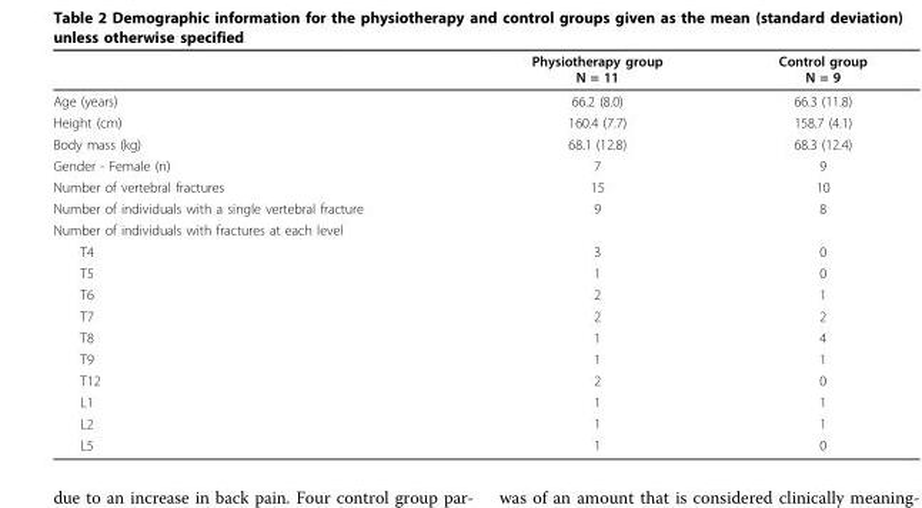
<table><thead><tr><td></td><td>Physiotherapy group N = 11</td><td>Control group N = 9</td></tr></thead><tbody><tr><td>Age (years)</td><td>66.2 (8.0)</td><td>66.3 (11.8)</td></tr><tr><td>Height (cm)</td><td>160.4 (7.7)</td><td>158.7 (4.1)</td></tr><tr><td>Body mass (kg)</td><td>68.1 (12.8)</td><td>68.3 (12.4)</td></tr><tr><td>Gender - Female (n)</td><td>7</td><td>9</td></tr><tr><td>Number of vertebral fractures</td><td>15</td><td>10</td></tr><tr><td>Number of individuals with a single vertebral fracture</td><td>9</td><td>8</td></tr><tr><td colspan="3">Number of individuals with fractures at each level</td></tr><tr><td>T4</td><td>3</td><td>0</td></tr><tr><td>T5</td><td>1</td><td>0</td></tr><tr><td>T6</td><td>2</td><td>1</td></tr><tr><td>T7</td><td>2</td><td>2</td></tr><tr><td>T8</td><td>1</td><td>4</td></tr><tr><td>T9</td><td>1</td><td>1</td></tr><tr><td>T12</td><td>2</td><td>0</td></tr><tr><td>L1</td><td>1</td><td>1</td></tr><tr><td>L2</td><td>1</td><td>1</td></tr><tr><td>L5</td><td>1</td><td>0</td></tr></tbody></table>